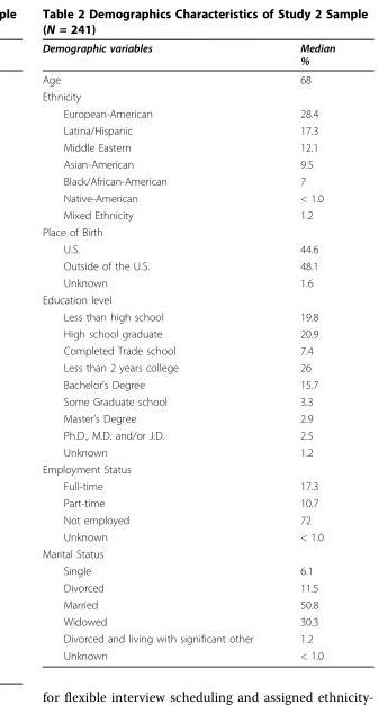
<table><thead><tr><td>Demographic variables</td><td>Median %</td></tr></thead><tbody><tr><td>Age</td><td>68</td></tr><tr><td colspan="2">Ethnicity</td></tr><tr><td>European-American</td><td>28.4</td></tr><tr><td>Latina/Hispanic</td><td>17.3</td></tr><tr><td>Middle Eastern</td><td>12.1</td></tr><tr><td>Asian-American</td><td>9.5</td></tr><tr><td>Black/African-American</td><td>7</td></tr><tr><td>Native-American</td><td>&lt; 1.0</td></tr><tr><td>Mixed Ethnicity</td><td>1.2</td></tr><tr><td colspan="2">Place of Birth</td></tr><tr><td>U.S.</td><td>44.6</td></tr><tr><td>Outside of the U.S.</td><td>48.1</td></tr><tr><td>Unknown</td><td>1.6</td></tr><tr><td colspan="2">Education level</td></tr><tr><td>Less than high school</td><td>19.8</td></tr><tr><td>High school graduate</td><td>20.9</td></tr><tr><td>Completed Trade school</td><td>7.4</td></tr><tr><td>Less than 2 years college</td><td>26</td></tr><tr><td>Bachelor’s Degree</td><td>15.7</td></tr><tr><td>Some Graduate school</td><td>3.3</td></tr><tr><td>Master’s Degree</td><td>2.9</td></tr><tr><td>Ph.D., M.D. and/or J.D.</td><td>2.5</td></tr><tr><td>Unknown</td><td>1.2</td></tr><tr><td colspan="2">Employment Status</td></tr><tr><td>Full-time</td><td>17.3</td></tr><tr><td>Part-time</td><td>10.7</td></tr><tr><td>Not employed</td><td>72</td></tr><tr><td>Unknown</td><td>&lt; 1.0</td></tr><tr><td colspan="2">Marital Status</td></tr><tr><td>Single</td><td>6.1</td></tr><tr><td>Divorced</td><td>11.5</td></tr><tr><td>Married</td><td>50.8</td></tr><tr><td>Widowed</td><td>30.3</td></tr><tr><td>Divorced and living with significant other</td><td>1.2</td></tr><tr><td>Unknown</td><td>&lt; 1.0</td></tr></tbody></table>